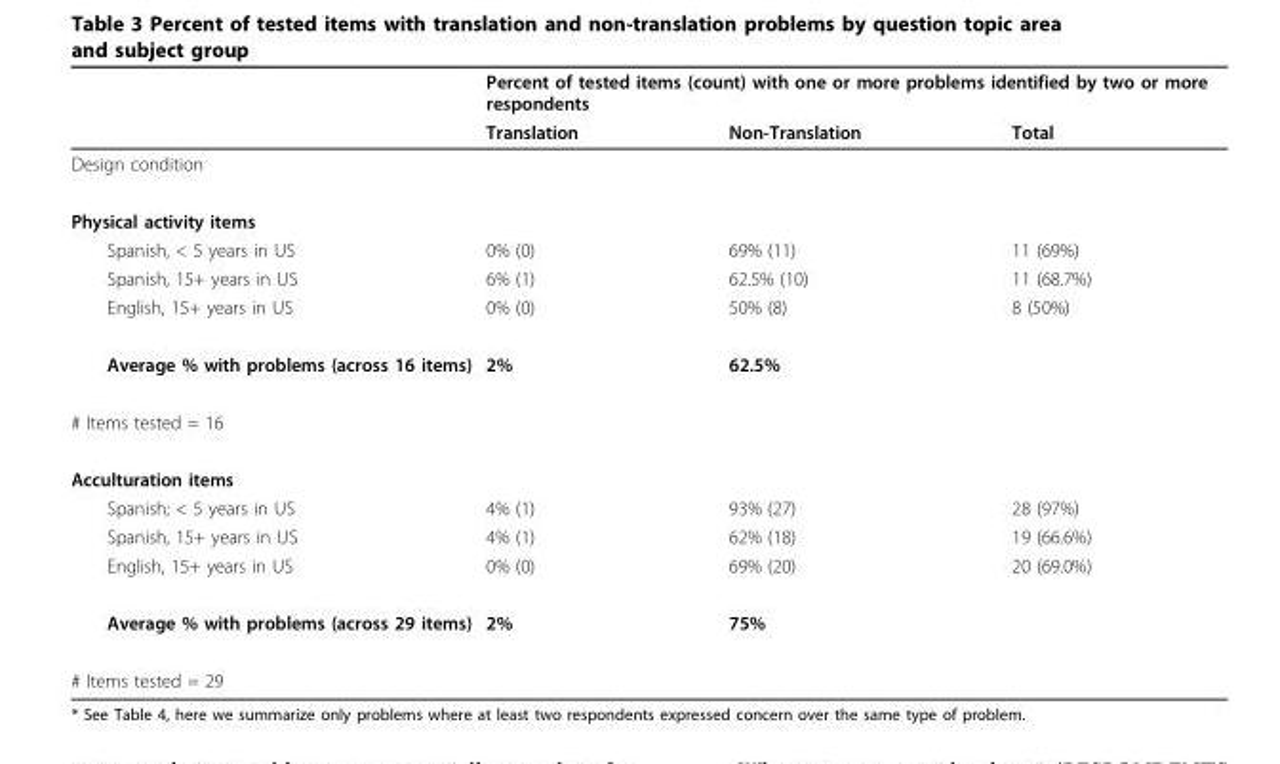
<table><thead><tr><td rowspan="2"></td><td colspan="3">Percent of tested items (count) with one or more problems identified by two or more respondents</td></tr><tr><td>Translation</td><td>Non-Translation</td><td>Total</td></tr></thead><tbody><tr><td colspan="4">Design condition</td></tr><tr><td colspan="4">Physical activity items</td></tr><tr><td>Spanish, &lt; 5 years in US</td><td>0% (0)</td><td>69% (11)</td><td>11 (69%)</td></tr><tr><td>Spanish, 15+ years in US</td><td>6% (1)</td><td>62.5% (10)</td><td>11 (68.7%)</td></tr><tr><td>English, 15+ years in US</td><td>0% (0)</td><td>50% (8)</td><td>8 (50%)</td></tr><tr><td>Average % with problems (across 16 items)</td><td>2%</td><td>62.5%</td><td></td></tr><tr><td colspan="4"># Items tested = 16</td></tr><tr><td colspan="4">Acculturation items</td></tr><tr><td>Spanish; &lt; 5 years in US</td><td>4% (1)</td><td>93% (27)</td><td>28 (97%)</td></tr><tr><td>Spanish, 15+ years in US</td><td>4% (1)</td><td>62% (18)</td><td>19 (66.6%)</td></tr><tr><td>English, 15+ years in US</td><td>0% (0)</td><td>69% (20)</td><td>20 (69.0%)</td></tr><tr><td>Average % with problems (across 29 items)</td><td>2%</td><td>75%</td><td></td></tr><tr><td># Items tested = 29</td><td></td><td></td><td></td></tr></tbody></table>